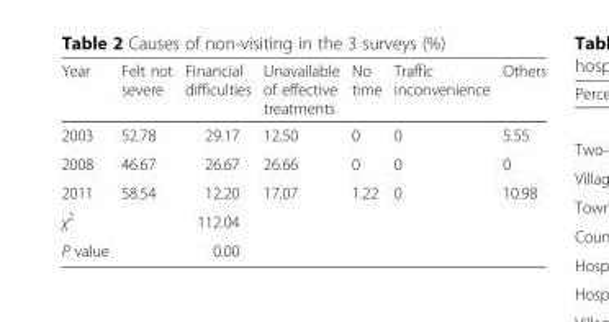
<table><thead><tr><td>Year</td><td>Felt not severe</td><td>Financial difficulties</td><td>Unavailable of effective treatments</td><td>No time</td><td>Traffic inconvenience</td><td>Others</td></tr></thead><tbody><tr><td>2003</td><td>52.78</td><td>29.17</td><td>12.50</td><td>0</td><td>0</td><td>5.55</td></tr><tr><td>2008</td><td>46.67</td><td>26.67</td><td>26.66</td><td>0</td><td>0</td><td>0</td></tr><tr><td>2011</td><td>58.54</td><td>12.20</td><td>17.07</td><td>1.22</td><td>0</td><td>10.98</td></tr><tr><td>χ<sup>2</sup></td><td></td><td>112.04</td><td></td><td></td><td></td><td></td></tr><tr><td>P value</td><td></td><td>0.00</td><td></td><td></td><td></td><td></td></tr></tbody></table>